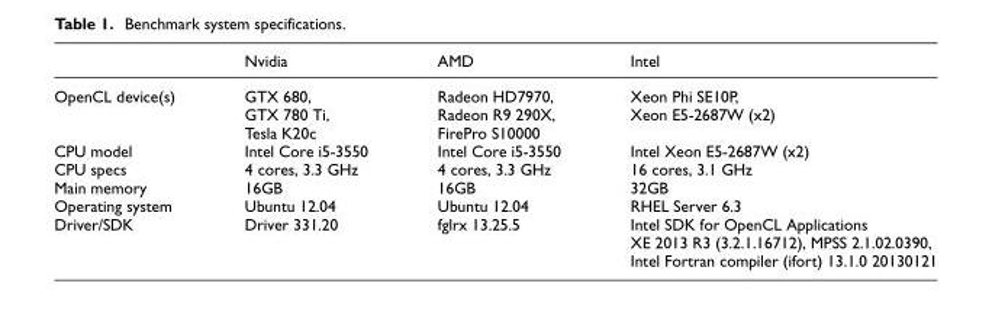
<table><thead><tr><td></td><td>Nvidia</td><td>AMD</td><td>Intel</td></tr></thead><tbody><tr><td>OpenCL device(s)</td><td>GTX 680, GTX 780 Ti, Tesla K20c</td><td>Radeon HD7970, Radeon R9 290X, FirePro S10000</td><td>Xeon Phi SE10P, Xeon E5-2687W (x2)</td></tr><tr><td>CPU model</td><td>Intel Core i5-3550</td><td>Intel Core i5-3550</td><td>Intel Xeon E5-2687W (x2)</td></tr><tr><td>CPU specs</td><td>4 cores, 3.3 GHz</td><td>4 cores, 3.3 GHz</td><td>16 cores, 3.1 GHz</td></tr><tr><td>Main memory</td><td>16GB</td><td>16GB</td><td>32GB</td></tr><tr><td>Operating system</td><td>Ubuntu 12.04</td><td>Ubuntu 12.04</td><td>RHEL Server 6.3</td></tr><tr><td>Driver/SDK</td><td>Driver 331.20</td><td>fglrx 13.25.5</td><td>Intel SDK for OpenCL Applications XE 2013 R3 (3.2.1.16712), MPSS 2.1.02.0390, Intel Fortran compiler (ifort) 13.1.0 20130121</td></tr></tbody></table>